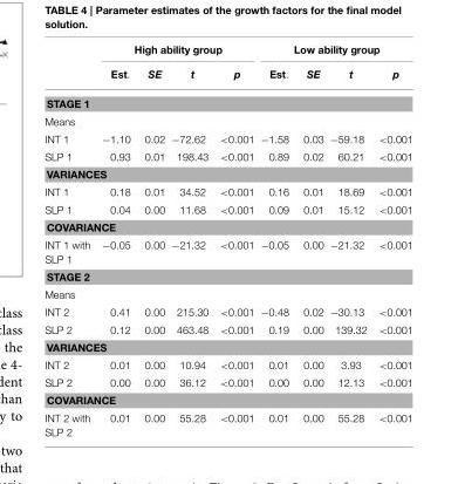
<table><thead><tr><td rowspan="2"></td><td colspan="4">High ability group</td><td colspan="4">Low ability group</td></tr><tr><td>Est.</td><td>SE</td><td>t</td><td>p</td><td>Est.</td><td>SE</td><td>t</td><td>p</td></tr></thead><tbody><tr><td colspan="9">STAGE 1</td></tr><tr><td colspan="9">Means</td></tr><tr><td>INT 1</td><td>−1.10</td><td>0.02</td><td>−72.62</td><td>&lt;0.001</td><td>−1.58</td><td>0.03</td><td>−59.18</td><td>&lt;0.001</td></tr><tr><td>SLP 1</td><td>0.93</td><td>0.01</td><td>198.43</td><td>&lt;0.001</td><td>0.89</td><td>0.02</td><td>60.21</td><td>&lt;0.001</td></tr><tr><td colspan="9">VARIANCES</td></tr><tr><td>INT 1</td><td>0.18</td><td>0.01</td><td>34.52</td><td>&lt;0.001</td><td>0.16</td><td>0.01</td><td>18.69</td><td>&lt;0.001</td></tr><tr><td>SLP 1</td><td>0.04</td><td>0.00</td><td>11.68</td><td>&lt;0.001</td><td>0.09</td><td>0.01</td><td>15.12</td><td>&lt;0.001</td></tr><tr><td colspan="9">COVARIANCE</td></tr><tr><td>INT 1 with SLP 1</td><td>−0.05</td><td>0.00</td><td>−21.32</td><td>&lt;0.001</td><td>−0.05</td><td>0.00</td><td>−21.32</td><td>&lt;0.001</td></tr><tr><td colspan="9">STAGE 2</td></tr><tr><td colspan="9">Means</td></tr><tr><td>INT 2</td><td>0.41</td><td>0.00</td><td>215.30</td><td>&lt;0.001</td><td>−0.48</td><td>0.02</td><td>−30.13</td><td>&lt;0.001</td></tr><tr><td>SLP 2</td><td>0.12</td><td>0.00</td><td>463.48</td><td>&lt;0.001</td><td>0.19</td><td>0.00</td><td>139.32</td><td>&lt;0.001</td></tr><tr><td colspan="9">VARIANCES</td></tr><tr><td>INT 2</td><td>0.01</td><td>0.00</td><td>10.94</td><td>&lt;0.001</td><td>0.01</td><td>0.00</td><td>3.93</td><td>&lt;0.001</td></tr><tr><td>SLP 2</td><td>0.00</td><td>0.00</td><td>36.12</td><td>&lt;0.001</td><td>0.00</td><td>0.00</td><td>12.13</td><td>&lt;0.001</td></tr><tr><td colspan="9">COVARIANCE</td></tr><tr><td>INT 2 with SLP 2</td><td>0.01</td><td>0.00</td><td>55.28</td><td>&lt;0.001</td><td>0.01</td><td>0.00</td><td>55.28</td><td>&lt;0.001</td></tr></tbody></table>